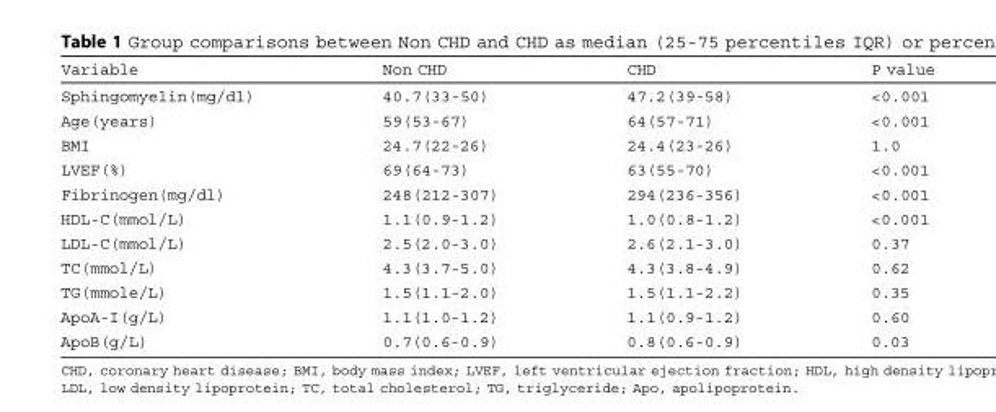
<table><thead><tr><td>Variable</td><td>Non CHD</td><td>CHD</td><td>P value</td></tr></thead><tbody><tr><td>Sphingomyelin(mg/dl)</td><td>40.7(33-50)</td><td>47.2(39-58)</td><td>&lt;0.001</td></tr><tr><td>Age(years)</td><td>59(53-67)</td><td>64(57-71)</td><td>&lt;0.001</td></tr><tr><td>BMI</td><td>24.7(22-26)</td><td>24.4(23-26)</td><td>1.0</td></tr><tr><td>LVEF(%)</td><td>69(64-73)</td><td>63(55-70)</td><td>&lt;0.001</td></tr><tr><td>Fibrinogen(mg/dl)</td><td>248(212-307)</td><td>294(236-356)</td><td>&lt;0.001</td></tr><tr><td>HDL-C(mmol/L)</td><td>1.1(0.9-1.2)</td><td>1.0(0.8-1.2)</td><td>&lt;0.001</td></tr><tr><td>LDL-C(mmol/L)</td><td>2.5(2.0-3.0)</td><td>2.6(2.1-3.0)</td><td>0.37</td></tr><tr><td>TC(mmol/L)</td><td>4.3(3.7-5.0)</td><td>4.3(3.8-4.9)</td><td>0.62</td></tr><tr><td>TG(mmole/L)</td><td>1.5(1.1-2.0)</td><td>1.5(1.1-2.2)</td><td>0.35</td></tr><tr><td>ApoA-I(g/L)</td><td>1.1(1.0-1.2)</td><td>1.1(0.9-1.2)</td><td>0.60</td></tr><tr><td>ApoB(g/L)</td><td>0.7(0.6-0.9)</td><td>0.8(0.6-0.9)</td><td>0.03</td></tr></tbody></table>